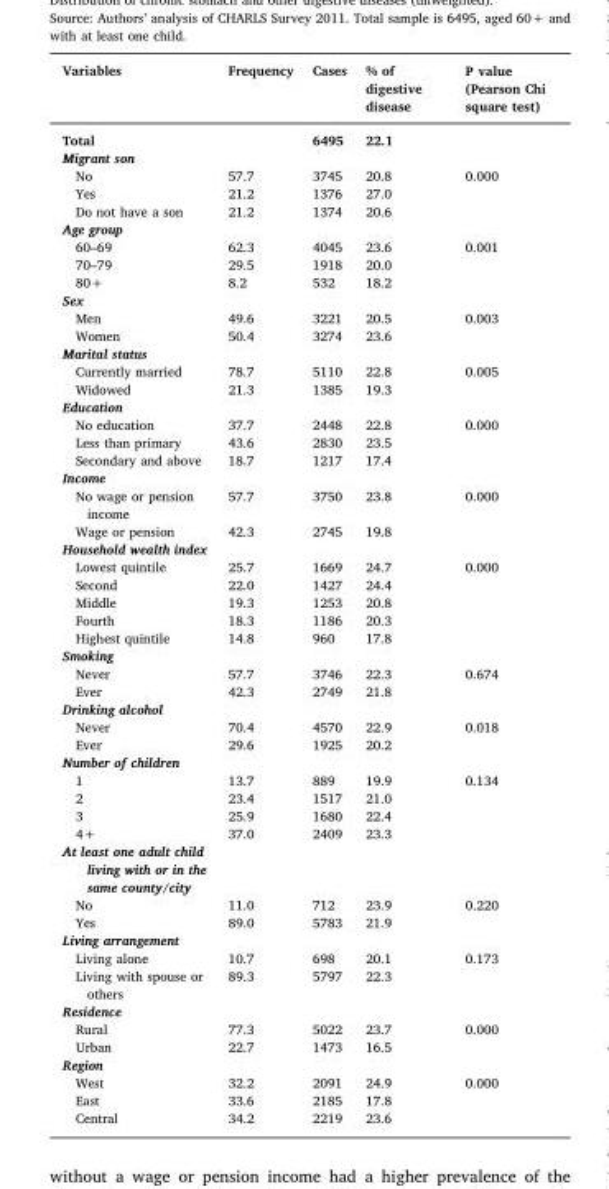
<table><thead><tr><td>Variables</td><td>Frequency</td><td>Cases</td><td>% of digestive disease</td><td>P value (Pearson Chi square test)</td></tr></thead><tbody><tr><td>Total</td><td></td><td>6495</td><td>22.1</td><td></td></tr><tr><td colspan="5">Migrant son</td></tr><tr><td>No</td><td>57.7</td><td>3745</td><td>20.8</td><td>0.000</td></tr><tr><td>Yes</td><td>21.2</td><td>1376</td><td>27.0</td><td></td></tr><tr><td>Do not have a son</td><td>21.2</td><td>1374</td><td>20.6</td><td></td></tr><tr><td colspan="5">Age group</td></tr><tr><td>60–69</td><td>62.3</td><td>4045</td><td>23.6</td><td>0.001</td></tr><tr><td>70–79</td><td>29.5</td><td>1918</td><td>20.0</td><td></td></tr><tr><td>80+</td><td>8.2</td><td>532</td><td>18.2</td><td></td></tr><tr><td colspan="5">Sex</td></tr><tr><td>Men</td><td>49.6</td><td>3221</td><td>20.5</td><td>0.003</td></tr><tr><td>Women</td><td>50.4</td><td>3274</td><td>23.6</td><td></td></tr><tr><td colspan="5">Marital status</td></tr><tr><td>Currently married</td><td>78.7</td><td>5110</td><td>22.8</td><td>0.005</td></tr><tr><td>Widowed</td><td>21.3</td><td>1385</td><td>19.3</td><td></td></tr><tr><td colspan="5">Education</td></tr><tr><td>No education</td><td>37.7</td><td>2448</td><td>22.8</td><td>0.000</td></tr><tr><td>Less than primary</td><td>43.6</td><td>2830</td><td>23.5</td><td></td></tr><tr><td>Secondary and above</td><td>18.7</td><td>1217</td><td>17.4</td><td></td></tr><tr><td colspan="5">Income</td></tr><tr><td>No wage or pension income</td><td>57.7</td><td>3750</td><td>23.8</td><td>0.000</td></tr><tr><td>Wage or pension</td><td>42.3</td><td>2745</td><td>19.8</td><td></td></tr><tr><td colspan="5">Household wealth index</td></tr><tr><td>Lowest quintile</td><td>25.7</td><td>1669</td><td>24.7</td><td>0.000</td></tr><tr><td>Second</td><td>22.0</td><td>1427</td><td>24.4</td><td></td></tr><tr><td>Middle</td><td>19.3</td><td>1253</td><td>20.8</td><td></td></tr><tr><td>Fourth</td><td>18.3</td><td>1186</td><td>20.3</td><td></td></tr><tr><td>Highest quintile</td><td>14.8</td><td>960</td><td>17.8</td><td></td></tr><tr><td colspan="5">Smoking</td></tr><tr><td>Never</td><td>57.7</td><td>3746</td><td>22.3</td><td>0.674</td></tr><tr><td>Ever</td><td>42.3</td><td>2749</td><td>21.8</td><td></td></tr><tr><td colspan="5">Drinking alcohol</td></tr><tr><td>Never</td><td>70.4</td><td>4570</td><td>22.9</td><td>0.018</td></tr><tr><td>Ever</td><td>29.6</td><td>1925</td><td>20.2</td><td></td></tr><tr><td colspan="5">Number of children</td></tr><tr><td>1</td><td>13.7</td><td>889</td><td>19.9</td><td>0.134</td></tr><tr><td>2</td><td>23.4</td><td>1517</td><td>21.0</td><td></td></tr><tr><td>3</td><td>25.9</td><td>1680</td><td>22.4</td><td></td></tr><tr><td>4+</td><td>37.0</td><td>2409</td><td>23.3</td><td></td></tr><tr><td colspan="5">At least one adult child living with or in the same county/city</td></tr><tr><td>No</td><td>11.0</td><td>712</td><td>23.9</td><td>0.220</td></tr><tr><td>Yes</td><td>89.0</td><td>5783</td><td>21.9</td><td></td></tr><tr><td colspan="5">Living arrangement</td></tr><tr><td>Living alone</td><td>10.7</td><td>698</td><td>20.1</td><td>0.173</td></tr><tr><td>Living with spouse or others</td><td>89.3</td><td>5797</td><td>22.3</td><td></td></tr><tr><td colspan="5">Residence</td></tr><tr><td>Rural</td><td>77.3</td><td>5022</td><td>23.7</td><td>0.000</td></tr><tr><td>Urban</td><td>22.7</td><td>1473</td><td>16.5</td><td></td></tr><tr><td colspan="5">Region</td></tr><tr><td>West</td><td>32.2</td><td>2091</td><td>24.9</td><td>0.000</td></tr><tr><td>East</td><td>33.6</td><td>2185</td><td>17.8</td><td></td></tr><tr><td>Central</td><td>34.2</td><td>2219</td><td>23.6</td><td></td></tr></tbody></table>